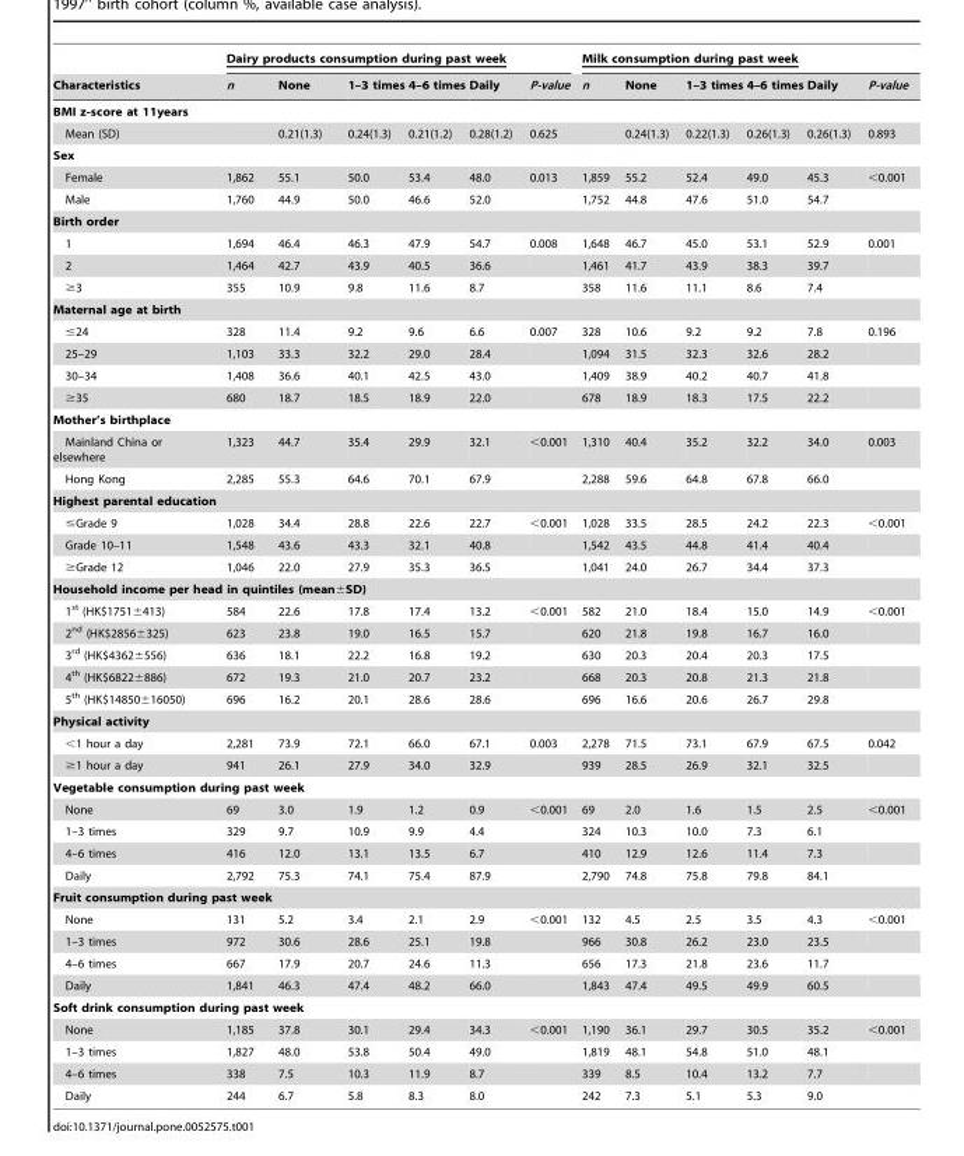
<table><thead><tr><td rowspan="2">Characteristics</td><td colspan="6">Dairy products consumption during past week</td><td colspan="6">Milk consumption during past week</td></tr><tr><td>n</td><td>None</td><td>1–3 times</td><td>4–6 times</td><td>Daily</td><td>P-value</td><td>n</td><td>None</td><td>1–3 times</td><td>4–6 times</td><td>Daily</td><td>P-value</td></tr></thead><tbody><tr><td colspan="13">BMI z-score at 11years</td></tr><tr><td>Mean (SD)</td><td></td><td>0.21(1.3)</td><td>0.24(1.3)</td><td>0.21(1.2)</td><td>0.28(1.2)</td><td>0.625</td><td></td><td>0.24(1.3)</td><td>0.22(1.3)</td><td>0.26(1.3)</td><td>0.26(1.3)</td><td>0.893</td></tr><tr><td colspan="13">Sex</td></tr><tr><td>Female</td><td>1,862</td><td>55.1</td><td>50.0</td><td>53.4</td><td>48.0</td><td>0.013</td><td>1,859</td><td>55.2</td><td>52.4</td><td>49.0</td><td>45.3</td><td>&lt;0.001</td></tr><tr><td>Male</td><td>1,760</td><td>44.9</td><td>50.0</td><td>46.6</td><td>52.0</td><td></td><td>1,752</td><td>44.8</td><td>47.6</td><td>51.0</td><td>54.7</td><td></td></tr><tr><td colspan="13">Birth order</td></tr><tr><td>1</td><td>1,694</td><td>46.4</td><td>46.3</td><td>47.9</td><td>54.7</td><td>0.008</td><td>1,648</td><td>46.7</td><td>45.0</td><td>53.1</td><td>52.9</td><td>0.001</td></tr><tr><td>2</td><td>1,464</td><td>42.7</td><td>43.9</td><td>40.5</td><td>36.6</td><td></td><td>1,461</td><td>41.7</td><td>43.9</td><td>38.3</td><td>39.7</td><td></td></tr><tr><td>≥3</td><td>355</td><td>10.9</td><td>9.8</td><td>11.6</td><td>8.7</td><td></td><td>358</td><td>11.6</td><td>11.1</td><td>8.6</td><td>7.4</td><td></td></tr><tr><td colspan="13">Maternal age at birth</td></tr><tr><td>≤24</td><td>328</td><td>11.4</td><td>9.2</td><td>9.6</td><td>6.6</td><td>0.007</td><td>328</td><td>10.6</td><td>9.2</td><td>9.2</td><td>7.8</td><td>0.196</td></tr><tr><td>25–29</td><td>1,103</td><td>33.3</td><td>32.2</td><td>29.0</td><td>28.4</td><td></td><td>1,094</td><td>31.5</td><td>32.3</td><td>32.6</td><td>28.2</td><td></td></tr><tr><td>30–34</td><td>1,408</td><td>36.6</td><td>40.1</td><td>42.5</td><td>43.0</td><td></td><td>1,409</td><td>38.9</td><td>40.2</td><td>40.7</td><td>41.8</td><td></td></tr><tr><td>≥35</td><td>680</td><td>18.7</td><td>18.5</td><td>18.9</td><td>22.0</td><td></td><td>678</td><td>18.9</td><td>18.3</td><td>17.5</td><td>22.2</td><td></td></tr><tr><td colspan="13">Mother’s birthplace</td></tr><tr><td>Mainland China or elsewhere</td><td>1,323</td><td>44.7</td><td>35.4</td><td>29.9</td><td>32.1</td><td>&lt;0.001</td><td>1,310</td><td>40.4</td><td>35.2</td><td>32.2</td><td>34.0</td><td>0.003</td></tr><tr><td>Hong Kong</td><td>2,285</td><td>55.3</td><td>64.6</td><td>70.1</td><td>67.9</td><td></td><td>2,288</td><td>59.6</td><td>64.8</td><td>67.8</td><td>66.0</td><td></td></tr><tr><td colspan="13">Highest parental education</td></tr><tr><td>≤Grade 9</td><td>1,028</td><td>34.4</td><td>28.8</td><td>22.6</td><td>22.7</td><td>&lt;0.001</td><td>1,028</td><td>33.5</td><td>28.5</td><td>24.2</td><td>22.3</td><td>&lt;0.001</td></tr><tr><td>Grade 10–11</td><td>1,548</td><td>43.6</td><td>43.3</td><td>32.1</td><td>40.8</td><td></td><td>1,542</td><td>43.5</td><td>44.8</td><td>41.4</td><td>40.4</td><td></td></tr><tr><td>≥Grade 12</td><td>1,046</td><td>22.0</td><td>27.9</td><td>35.3</td><td>36.5</td><td></td><td>1,041</td><td>24.0</td><td>26.7</td><td>34.4</td><td>37.3</td><td></td></tr><tr><td colspan="13">Household income per head in quintiles (mean±SD)</td></tr><tr><td>1<sup>st</sup> (HK$1751±413)</td><td>584</td><td>22.6</td><td>17.8</td><td>17.4</td><td>13.2</td><td>&lt;0.001</td><td>582</td><td>21.0</td><td>18.4</td><td>15.0</td><td>14.9</td><td>&lt;0.001</td></tr><tr><td>2<sup>nd</sup> (HK$2856±325)</td><td>623</td><td>23.8</td><td>19.0</td><td>16.5</td><td>15.7</td><td></td><td>620</td><td>21.8</td><td>19.8</td><td>16.7</td><td>16.0</td><td></td></tr><tr><td>3<sup>rd</sup> (HK$4362±556)</td><td>636</td><td>18.1</td><td>22.2</td><td>16.8</td><td>19.2</td><td></td><td>630</td><td>20.3</td><td>20.4</td><td>20.3</td><td>17.5</td><td></td></tr><tr><td>4<sup>th</sup> (HK$6822±886)</td><td>672</td><td>19.3</td><td>21.0</td><td>20.7</td><td>23.2</td><td></td><td>668</td><td>20.3</td><td>20.8</td><td>21.3</td><td>21.8</td><td></td></tr><tr><td>5<sup>th</sup> (HK$14850±16050)</td><td>696</td><td>16.2</td><td>20.1</td><td>28.6</td><td>28.6</td><td></td><td>696</td><td>16.6</td><td>20.6</td><td>26.7</td><td>29.8</td><td></td></tr><tr><td colspan="13">Physical activity</td></tr><tr><td>&lt;1 hour a day</td><td>2,281</td><td>73.9</td><td>72.1</td><td>66.0</td><td>67.1</td><td>0.003</td><td>2,278</td><td>71.5</td><td>73.1</td><td>67.9</td><td>67.5</td><td>0.042</td></tr><tr><td>≥1 hour a day</td><td>941</td><td>26.1</td><td>27.9</td><td>34.0</td><td>32.9</td><td></td><td>939</td><td>28.5</td><td>26.9</td><td>32.1</td><td>32.5</td><td></td></tr><tr><td colspan="13">Vegetable consumption during past week</td></tr><tr><td>None</td><td>69</td><td>3.0</td><td>1.9</td><td>1.2</td><td>0.9</td><td>&lt;0.001</td><td>69</td><td>2.0</td><td>1.6</td><td>1.5</td><td>2.5</td><td>&lt;0.001</td></tr><tr><td>1–3 times</td><td>329</td><td>9.7</td><td>10.9</td><td>9.9</td><td>4.4</td><td></td><td>324</td><td>10.3</td><td>10.0</td><td>7.3</td><td>6.1</td><td></td></tr><tr><td>4–6 times</td><td>416</td><td>12.0</td><td>13.1</td><td>13.5</td><td>6.7</td><td></td><td>410</td><td>12.9</td><td>12.6</td><td>11.4</td><td>7.3</td><td></td></tr><tr><td>Daily</td><td>2,792</td><td>75.3</td><td>74.1</td><td>75.4</td><td>87.9</td><td></td><td>2,790</td><td>74.8</td><td>75.8</td><td>79.8</td><td>84.1</td><td></td></tr><tr><td colspan="13">Fruit consumption during past week</td></tr><tr><td>None</td><td>131</td><td>5.2</td><td>3.4</td><td>2.1</td><td>2.9</td><td>&lt;0.001</td><td>132</td><td>4.5</td><td>2.5</td><td>3.5</td><td>4.3</td><td>&lt;0.001</td></tr><tr><td>1–3 times</td><td>972</td><td>30.6</td><td>28.6</td><td>25.1</td><td>19.8</td><td></td><td>966</td><td>30.8</td><td>26.2</td><td>23.0</td><td>23.5</td><td></td></tr><tr><td>4–6 times</td><td>667</td><td>17.9</td><td>20.7</td><td>24.6</td><td>11.3</td><td></td><td>656</td><td>17.3</td><td>21.8</td><td>23.6</td><td>11.7</td><td></td></tr><tr><td>Daily</td><td>1,841</td><td>46.3</td><td>47.4</td><td>48.2</td><td>66.0</td><td></td><td>1,843</td><td>47.4</td><td>49.5</td><td>49.9</td><td>60.5</td><td></td></tr><tr><td colspan="13">Soft drink consumption during past week</td></tr><tr><td>None</td><td>1,185</td><td>37.8</td><td>30.1</td><td>29.4</td><td>34.3</td><td>&lt;0.001</td><td>1,190</td><td>36.1</td><td>29.7</td><td>30.5</td><td>35.2</td><td>&lt;0.001</td></tr><tr><td>1–3 times</td><td>1,827</td><td>48.0</td><td>53.8</td><td>50.4</td><td>49.0</td><td></td><td>1,819</td><td>48.1</td><td>54.8</td><td>51.0</td><td>48.1</td><td></td></tr><tr><td>4–6 times</td><td>338</td><td>7.5</td><td>10.3</td><td>11.9</td><td>8.7</td><td></td><td>339</td><td>8.5</td><td>10.4</td><td>13.2</td><td>7.7</td><td></td></tr><tr><td>Daily</td><td>244</td><td>6.7</td><td>5.8</td><td>8.3</td><td>8.0</td><td></td><td>242</td><td>7.3</td><td>5.1</td><td>5.3</td><td>9.0</td><td></td></tr></tbody></table>